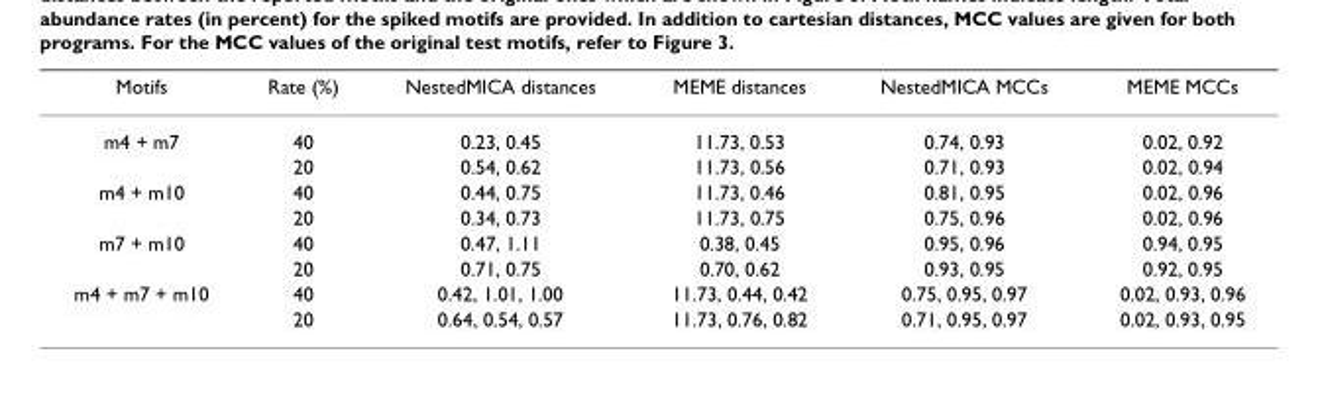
<table><thead><tr><td>Motifs</td><td>Rate (%)</td><td>NestedMICA distances</td><td>MEME distances</td><td>NestedMICA MCCs</td><td>MEME MCCs</td></tr></thead><tbody><tr><td rowspan="2">m4 + m7</td><td>40</td><td>0.23, 0.45</td><td>11.73, 0.53</td><td>0.74, 0.93</td><td>0.02, 0.92</td></tr><tr><td>20</td><td>0.54, 0.62</td><td>11.73, 0.56</td><td>0.71, 0.93</td><td>0.02, 0.94</td></tr><tr><td rowspan="2">m4 + m10</td><td>40</td><td>0.44, 0.75</td><td>11.73, 0.46</td><td>0.81, 0.95</td><td>0.02, 0.96</td></tr><tr><td>20</td><td>0.34, 0.73</td><td>11.73, 0.75</td><td>0.75, 0.96</td><td>0.02, 0.96</td></tr><tr><td rowspan="2">m7 + m10</td><td>40</td><td>0.47, 1.11</td><td>0.38, 0.45</td><td>0.95, 0.96</td><td>0.94, 0.95</td></tr><tr><td>20</td><td>0.71, 0.75</td><td>0.70, 0.62</td><td>0.93, 0.95</td><td>0.92, 0.95</td></tr><tr><td rowspan="2">m4 + m7 + m10</td><td>40</td><td>0.42, 1.01, 1.00</td><td>11.73, 0.44, 0.42</td><td>0.75, 0.95, 0.97</td><td>0.02, 0.93, 0.96</td></tr><tr><td>20</td><td>0.64, 0.54, 0.57</td><td>11.73, 0.76, 0.82</td><td>0.71, 0.95, 0.97</td><td>0.02, 0.93, 0.95</td></tr></tbody></table>